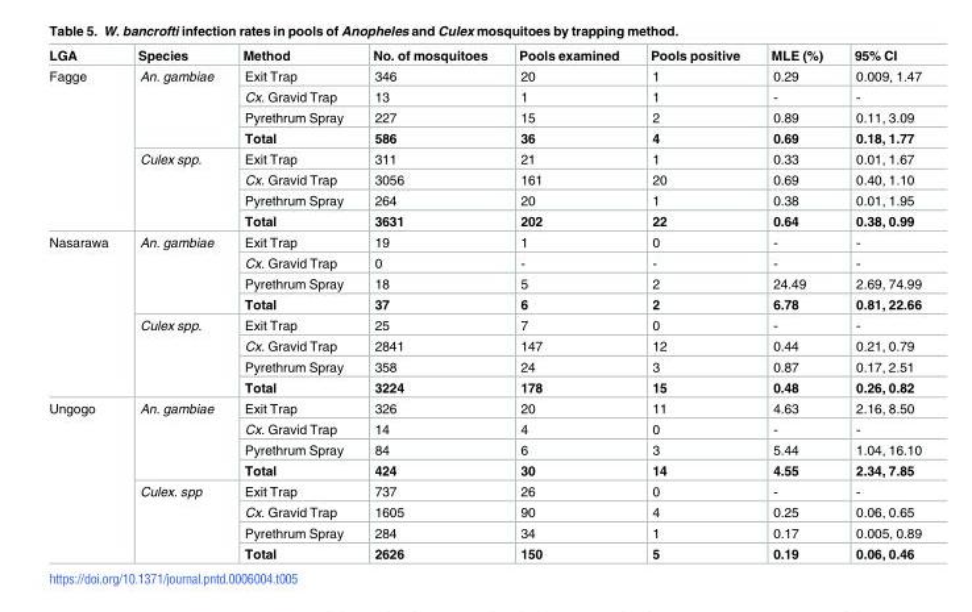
<table><thead><tr><td>LGA</td><td>Species</td><td>Method</td><td>No. of mosquitoes</td><td>Pools examined</td><td>Pools positive</td><td>MLE (%)</td><td>95% CI</td></tr></thead><tbody><tr><td rowspan="8">Fagge</td><td rowspan="4">An. gambiae</td><td>Exit Trap</td><td>346</td><td>20</td><td>1</td><td>0.29</td><td>0.009, 1.47</td></tr><tr><td>Cx. Gravid Trap</td><td>13</td><td>1</td><td>1</td><td>-</td><td>-</td></tr><tr><td>Pyrethrum Spray</td><td>227</td><td>15</td><td>2</td><td>0.89</td><td>0.11, 3.09</td></tr><tr><td>Total</td><td>586</td><td>36</td><td>4</td><td>0.69</td><td>0.18, 1.77</td></tr><tr><td rowspan="4">Culex spp.</td><td>Exit Trap</td><td>311</td><td>21</td><td>1</td><td>0.33</td><td>0.01, 1.67</td></tr><tr><td>Cx. Gravid Trap</td><td>3056</td><td>161</td><td>20</td><td>0.69</td><td>0.40, 1.10</td></tr><tr><td>Pyrethrum Spray</td><td>264</td><td>20</td><td>1</td><td>0.38</td><td>0.01, 1.95</td></tr><tr><td>Total</td><td>3631</td><td>202</td><td>22</td><td>0.64</td><td>0.38, 0.99</td></tr><tr><td rowspan="8">Nasarawa</td><td rowspan="4">An. gambiae</td><td>Exit Trap</td><td>19</td><td>1</td><td>0</td><td>-</td><td>-</td></tr><tr><td>Cx. Gravid Trap</td><td>0</td><td>-</td><td>-</td><td>-</td><td>-</td></tr><tr><td>Pyrethrum Spray</td><td>18</td><td>5</td><td>2</td><td>24.49</td><td>2.69, 74.99</td></tr><tr><td>Total</td><td>37</td><td>6</td><td>2</td><td>6.78</td><td>0.81, 22.66</td></tr><tr><td rowspan="4">Culex spp.</td><td>Exit Trap</td><td>25</td><td>7</td><td>0</td><td>-</td><td>-</td></tr><tr><td>Cx. Gravid Trap</td><td>2841</td><td>147</td><td>12</td><td>0.44</td><td>0.21, 0.79</td></tr><tr><td>Pyrethrum Spray</td><td>358</td><td>24</td><td>3</td><td>0.87</td><td>0.17, 2.51</td></tr><tr><td>Total</td><td>3224</td><td>178</td><td>15</td><td>0.48</td><td>0.26, 0.82</td></tr><tr><td rowspan="8">Ungogo</td><td rowspan="4">An. gambiae</td><td>Exit Trap</td><td>326</td><td>20</td><td>11</td><td>4.63</td><td>2.16, 8.50</td></tr><tr><td>Cx. Gravid Trap</td><td>14</td><td>4</td><td>0</td><td>-</td><td>-</td></tr><tr><td>Pyrethrum Spray</td><td>84</td><td>6</td><td>3</td><td>5.44</td><td>1.04, 16.10</td></tr><tr><td>Total</td><td>424</td><td>30</td><td>14</td><td>4.55</td><td>2.34, 7.85</td></tr><tr><td rowspan="4">Culex. spp</td><td>Exit Trap</td><td>737</td><td>26</td><td>0</td><td>-</td><td>-</td></tr><tr><td>Cx. Gravid Trap</td><td>1605</td><td>90</td><td>4</td><td>0.25</td><td>0.06, 0.65</td></tr><tr><td>Pyrethrum Spray</td><td>284</td><td>34</td><td>1</td><td>0.17</td><td>0.005, 0.89</td></tr><tr><td>Total</td><td>2626</td><td>150</td><td>5</td><td>0.19</td><td>0.06, 0.46</td></tr></tbody></table>